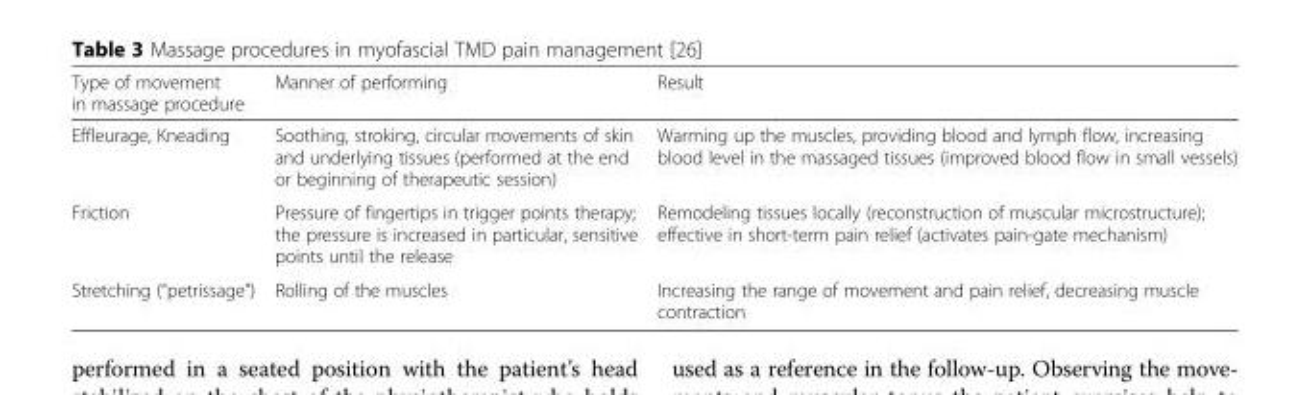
<table><thead><tr><td>Type of movement in massage procedure</td><td>Manner of performing</td><td>Result</td></tr></thead><tbody><tr><td>Effleurage, Kneading</td><td>Soothing, stroking, circular movements of skin and underlying tissues (performed at the end or beginning of therapeutic session)</td><td>Warming up the muscles, providing blood and lymph flow, increasing blood level in the massaged tissues (improved blood flow in small vessels)</td></tr><tr><td>Friction</td><td>Pressure of fingertips in trigger points therapy; the pressure is increased in particular, sensitive points until the release</td><td>Remodeling tissues locally (reconstruction of muscular microstructure); effective in short-term pain relief (activates pain-gate mechanism)</td></tr><tr><td>Stretching (“petrissage”)</td><td>Rolling of the muscles</td><td>Increasing the range of movement and pain relief, decreasing muscle contraction</td></tr></tbody></table>